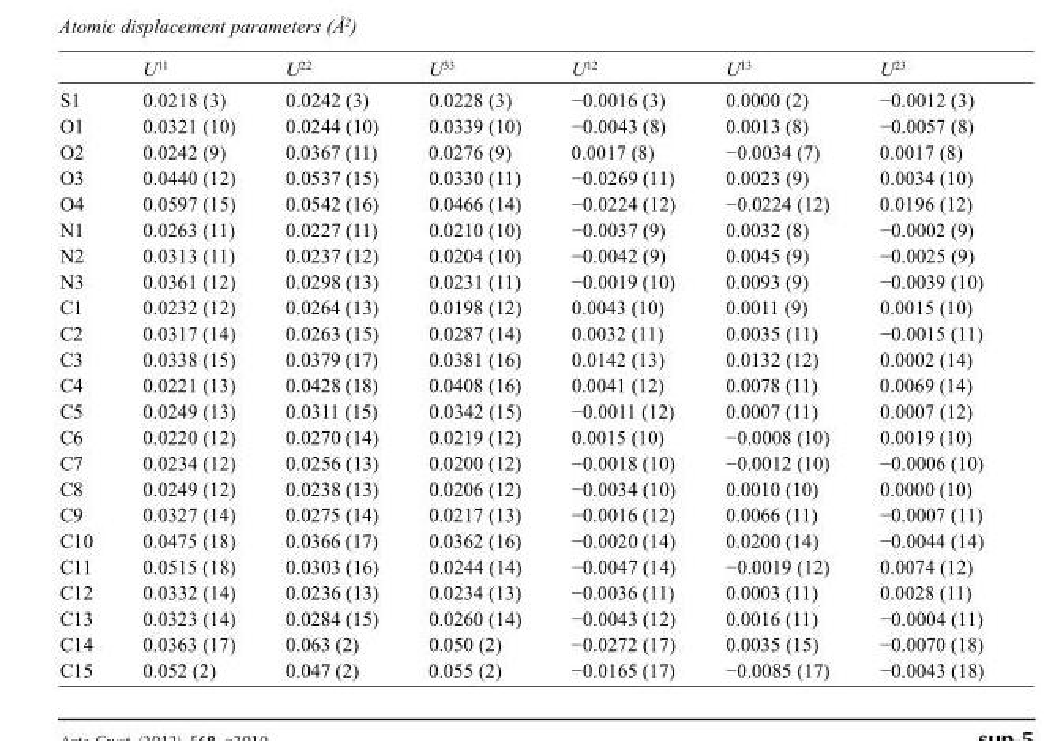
<table><thead><tr><td></td><td>U<sup>11</sup></td><td>U<sup>22</sup></td><td>U<sup>33</sup></td><td>U<sup>12</sup></td><td>U<sup>13</sup></td><td>U<sup>23</sup></td></tr></thead><tbody><tr><td>S1</td><td>0.0218 (3)</td><td>0.0242 (3)</td><td>0.0228 (3)</td><td>−0.0016 (3)</td><td>0.0000 (2)</td><td>−0.0012 (3)</td></tr><tr><td>O1</td><td>0.0321 (10)</td><td>0.0244 (10)</td><td>0.0339 (10)</td><td>−0.0043 (8)</td><td>0.0013 (8)</td><td>−0.0057 (8)</td></tr><tr><td>O2</td><td>0.0242 (9)</td><td>0.0367 (11)</td><td>0.0276 (9)</td><td>0.0017 (8)</td><td>−0.0034 (7)</td><td>0.0017 (8)</td></tr><tr><td>O3</td><td>0.0440 (12)</td><td>0.0537 (15)</td><td>0.0330 (11)</td><td>−0.0269 (11)</td><td>0.0023 (9)</td><td>0.0034 (10)</td></tr><tr><td>O4</td><td>0.0597 (15)</td><td>0.0542 (16)</td><td>0.0466 (14)</td><td>−0.0224 (12)</td><td>−0.0224 (12)</td><td>0.0196 (12)</td></tr><tr><td>N1</td><td>0.0263 (11)</td><td>0.0227 (11)</td><td>0.0210 (10)</td><td>−0.0037 (9)</td><td>0.0032 (8)</td><td>−0.0002 (9)</td></tr><tr><td>N2</td><td>0.0313 (11)</td><td>0.0237 (12)</td><td>0.0204 (10)</td><td>−0.0042 (9)</td><td>0.0045 (9)</td><td>−0.0025 (9)</td></tr><tr><td>N3</td><td>0.0361 (12)</td><td>0.0298 (13)</td><td>0.0231 (11)</td><td>−0.0019 (10)</td><td>0.0093 (9)</td><td>−0.0039 (10)</td></tr><tr><td>C1</td><td>0.0232 (12)</td><td>0.0264 (13)</td><td>0.0198 (12)</td><td>0.0043 (10)</td><td>0.0011 (9)</td><td>0.0015 (10)</td></tr><tr><td>C2</td><td>0.0317 (14)</td><td>0.0263 (15)</td><td>0.0287 (14)</td><td>0.0032 (11)</td><td>0.0035 (11)</td><td>−0.0015 (11)</td></tr><tr><td>C3</td><td>0.0338 (15)</td><td>0.0379 (17)</td><td>0.0381 (16)</td><td>0.0142 (13)</td><td>0.0132 (12)</td><td>0.0002 (14)</td></tr><tr><td>C4</td><td>0.0221 (13)</td><td>0.0428 (18)</td><td>0.0408 (16)</td><td>0.0041 (12)</td><td>0.0078 (11)</td><td>0.0069 (14)</td></tr><tr><td>C5</td><td>0.0249 (13)</td><td>0.0311 (15)</td><td>0.0342 (15)</td><td>−0.0011 (12)</td><td>0.0007 (11)</td><td>0.0007 (12)</td></tr><tr><td>C6</td><td>0.0220 (12)</td><td>0.0270 (14)</td><td>0.0219 (12)</td><td>0.0015 (10)</td><td>−0.0008 (10)</td><td>0.0019 (10)</td></tr><tr><td>C7</td><td>0.0234 (12)</td><td>0.0256 (13)</td><td>0.0200 (12)</td><td>−0.0018 (10)</td><td>−0.0012 (10)</td><td>−0.0006 (10)</td></tr><tr><td>C8</td><td>0.0249 (12)</td><td>0.0238 (13)</td><td>0.0206 (12)</td><td>−0.0034 (10)</td><td>0.0010 (10)</td><td>0.0000 (10)</td></tr><tr><td>C9</td><td>0.0327 (14)</td><td>0.0275 (14)</td><td>0.0217 (13)</td><td>−0.0016 (12)</td><td>0.0066 (11)</td><td>−0.0007 (11)</td></tr><tr><td>C10</td><td>0.0475 (18)</td><td>0.0366 (17)</td><td>0.0362 (16)</td><td>−0.0020 (14)</td><td>0.0200 (14)</td><td>−0.0044 (14)</td></tr><tr><td>C11</td><td>0.0515 (18)</td><td>0.0303 (16)</td><td>0.0244 (14)</td><td>−0.0047 (14)</td><td>−0.0019 (12)</td><td>0.0074 (12)</td></tr><tr><td>C12</td><td>0.0332 (14)</td><td>0.0236 (13)</td><td>0.0234 (13)</td><td>−0.0036 (11)</td><td>0.0003 (11)</td><td>0.0028 (11)</td></tr><tr><td>C13</td><td>0.0323 (14)</td><td>0.0284 (15)</td><td>0.0260 (14)</td><td>−0.0043 (12)</td><td>0.0016 (11)</td><td>−0.0004 (11)</td></tr><tr><td>C14</td><td>0.0363 (17)</td><td>0.063 (2)</td><td>0.050 (2)</td><td>−0.0272 (17)</td><td>0.0035 (15)</td><td>−0.0070 (18)</td></tr><tr><td>C15</td><td>0.052 (2)</td><td>0.047 (2)</td><td>0.055 (2)</td><td>−0.0165 (17)</td><td>−0.0085 (17)</td><td>−0.0043 (18)</td></tr></tbody></table>